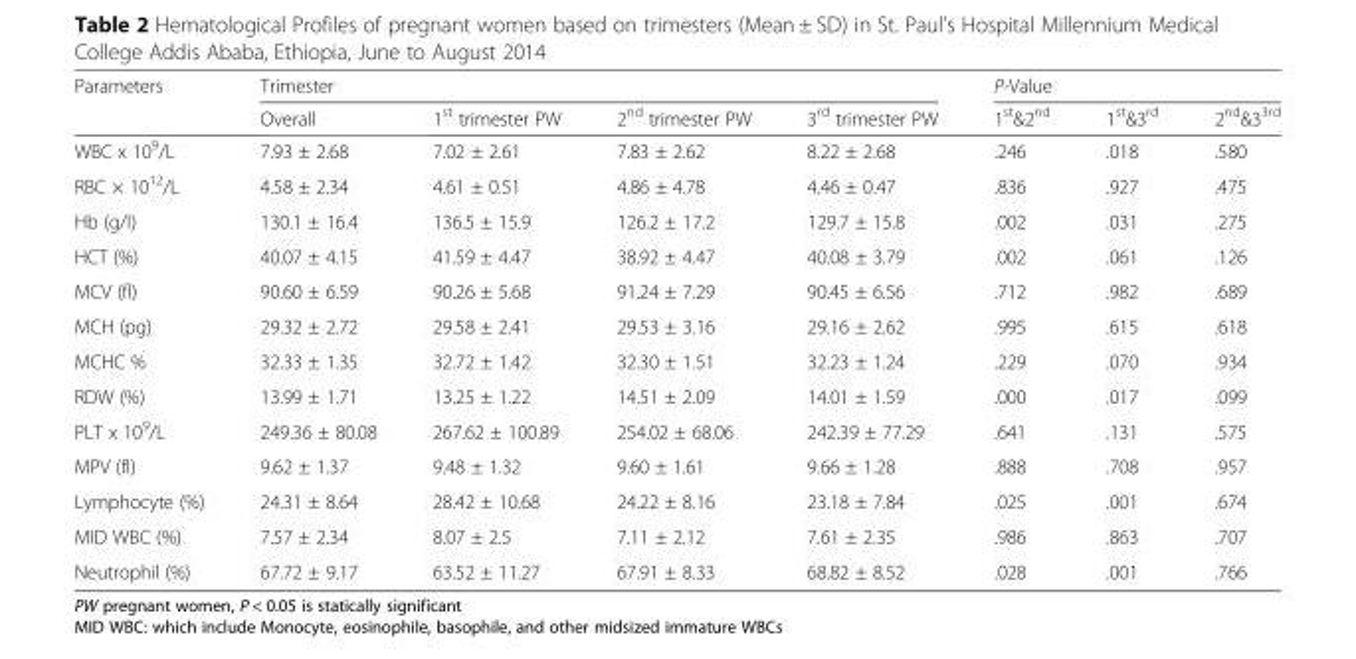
<table><thead><tr><td rowspan="2">Parameters</td><td colspan="4">Trimester</td><td colspan="3">P-Value</td></tr><tr><td>Overall</td><td>1<sup>st</sup> trimester PW</td><td>2<sup>nd</sup> trimester PW</td><td>3<sup>rd</sup> trimester PW</td><td>1<sup>st</sup>&amp;2<sup>nd</sup></td><td>1<sup>st</sup>&amp;3<sup>rd</sup></td><td>2<sup>nd</sup>&amp;3<sup>3rd</sup></td></tr></thead><tbody><tr><td>WBC x 10<sup>9</sup>/L</td><td>7.93 ± 2.68</td><td>7.02 ± 2.61</td><td>7.83 ± 2.62</td><td>8.22 ± 2.68</td><td>.246</td><td>.018</td><td>.580</td></tr><tr><td>RBC × 10<sup>12</sup>/L</td><td>4.58 ± 2.34</td><td>4.61 ± 0.51</td><td>4.86 ± 4.78</td><td>4.46 ± 0.47</td><td>.836</td><td>.927</td><td>.475</td></tr><tr><td>Hb (g/l)</td><td>130.1 ± 16.4</td><td>136.5 ± 15.9</td><td>126.2 ± 17.2</td><td>129.7 ± 15.8</td><td>.002</td><td>.031</td><td>.275</td></tr><tr><td>HCT (%)</td><td>40.07 ± 4.15</td><td>41.59 ± 4.47</td><td>38.92 ± 4.47</td><td>40.08 ± 3.79</td><td>.002</td><td>.061</td><td>.126</td></tr><tr><td>MCV (fl)</td><td>90.60 ± 6.59</td><td>90.26 ± 5.68</td><td>91.24 ± 7.29</td><td>90.45 ± 6.56</td><td>.712</td><td>.982</td><td>.689</td></tr><tr><td>MCH (pg)</td><td>29.32 ± 2.72</td><td>29.58 ± 2.41</td><td>29.53 ± 3.16</td><td>29.16 ± 2.62</td><td>.995</td><td>.615</td><td>.618</td></tr><tr><td>MCHC %</td><td>32.33 ± 1.35</td><td>32.72 ± 1.42</td><td>32.30 ± 1.51</td><td>32.23 ± 1.24</td><td>.229</td><td>.070</td><td>.934</td></tr><tr><td>RDW (%)</td><td>13.99 ± 1.71</td><td>13.25 ± 1.22</td><td>14.51 ± 2.09</td><td>14.01 ± 1.59</td><td>.000</td><td>.017</td><td>.099</td></tr><tr><td>PLT x 10<sup>9</sup>/L</td><td>249.36 ± 80.08</td><td>267.62 ± 100.89</td><td>254.02 ± 68.06</td><td>242.39 ± 77.29</td><td>.641</td><td>.131</td><td>.575</td></tr><tr><td>MPV (fl)</td><td>9.62 ± 1.37</td><td>9.48 ± 1.32</td><td>9.60 ± 1.61</td><td>9.66 ± 1.28</td><td>.888</td><td>.708</td><td>.957</td></tr><tr><td>Lymphocyte (%)</td><td>24.31 ± 8.64</td><td>28.42 ± 10.68</td><td>24.22 ± 8.16</td><td>23.18 ± 7.84</td><td>.025</td><td>.001</td><td>.674</td></tr><tr><td>MID WBC (%)</td><td>7.57 ± 2.34</td><td>8.07 ± 2.5</td><td>7.11 ± 2.12</td><td>7.61 ± 2.35</td><td>.986</td><td>.863</td><td>.707</td></tr><tr><td>Neutrophil (%)</td><td>67.72 ± 9.17</td><td>63.52 ± 11.27</td><td>67.91 ± 8.33</td><td>68.82 ± 8.52</td><td>.028</td><td>.001</td><td>.766</td></tr></tbody></table>